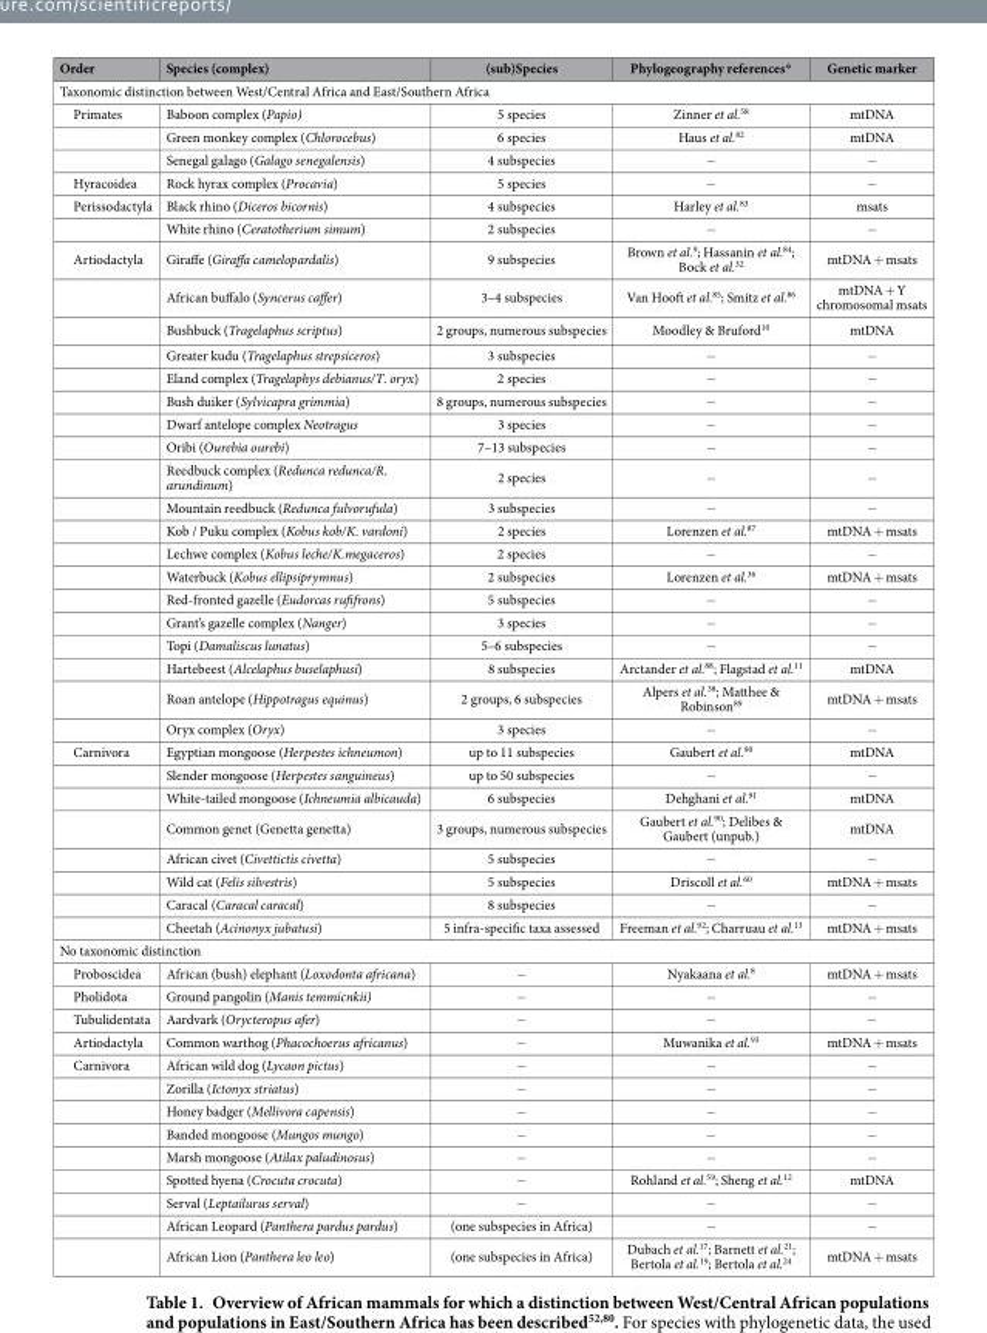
<table><thead><tr><td>Order</td><td>Species (complex)</td><td>(sub)Species</td><td>Phylogeography references*</td><td>Genetic marker</td></tr></thead><tbody><tr><td colspan="5">Taxonomic distinction between West/Central Africa and East/Southern Africa</td></tr><tr><td rowspan="3">Primates</td><td>Baboon complex (Papio)</td><td>5 species</td><td>Zinner et al.<sup>58</sup></td><td>mtDNA</td></tr><tr><td>Green monkey complex (Chlorocebus)</td><td>6 species</td><td>Haus et al.<sup>82</sup></td><td>mtDNA</td></tr><tr><td>Senegal galago (Galago senegalensis)</td><td>4 subspecies</td><td>−</td><td>−</td></tr><tr><td>Hyracoidea</td><td>Rock hyrax complex (Procavia)</td><td>5 species</td><td>−</td><td>−</td></tr><tr><td rowspan="2">Perissodactyla</td><td>Black rhino (Diceros bicornis)</td><td>4 subspecies</td><td>Harley et al.<sup>83</sup></td><td>msats</td></tr><tr><td>White rhino (Ceratotherium simum)</td><td>2 subspecies</td><td>−</td><td>−</td></tr><tr><td rowspan="19">Artiodactyla</td><td>Giraffe (Giraffa camelopardalis)</td><td>9 subspecies</td><td>Brown et al.<sup>9</sup>; Hassanin et al.<sup>84</sup>; Bock et al.<sup>32</sup></td><td>mtDNA + msats</td></tr><tr><td>African buffalo (Syncerus caffer)</td><td>3–4 subspecies</td><td>Van Hooft et al.<sup>85</sup>; Smitz et al.<sup>86</sup></td><td>mtDNA + Y chromosomal msats</td></tr><tr><td>Bushbuck (Tragelaphus scriptus)</td><td>2 groups, numerous subspecies</td><td>Moodley &amp; Bruford<sup>10</sup></td><td>mtDNA</td></tr><tr><td>Greater kudu (Tragelaphus strepsiceros)</td><td>3 subspecies</td><td>−</td><td>−</td></tr><tr><td>Eland complex (Tragelaphys debianus/T. oryx)</td><td>2 species</td><td>−</td><td>−</td></tr><tr><td>Bush duiker (Sylvicapra grimmia)</td><td>8 groups, numerous subspecies</td><td>−</td><td>−</td></tr><tr><td>Dwarf antelope complex Neotragus</td><td>3 species</td><td>−</td><td>−</td></tr><tr><td>Oribi (Ourebia ourebi)</td><td>7–13 subspecies</td><td>−</td><td>−</td></tr><tr><td>Reedbuck complex (Redunca redunca/R. arundinum)</td><td>2 species</td><td>−</td><td>−</td></tr><tr><td>Mountain reedbuck (Redunca fulvorufula)</td><td>3 subspecies</td><td>−</td><td>−</td></tr><tr><td>Kob / Puku complex (Kobus kob/K. vardoni)</td><td>2 species</td><td>Lorenzen et al.<sup>87</sup></td><td>mtDNA + msats</td></tr><tr><td>Lechwe complex (Kobus leche/K.megaceros)</td><td>2 species</td><td>−</td><td>−</td></tr><tr><td>Waterbuck (Kobus ellipsiprymnus)</td><td>2 subspecies</td><td>Lorenzen et al.<sup>36</sup></td><td>mtDNA + msats</td></tr><tr><td>Red-fronted gazelle (Eudorcas rufifrons)</td><td>5 subspecies</td><td>−</td><td>−</td></tr><tr><td>Grant’s gazelle complex (Nanger)</td><td>3 species</td><td>−</td><td>−</td></tr><tr><td>Topi (Damaliscus lunatus)</td><td>5–6 subspecies</td><td>−</td><td>−</td></tr><tr><td>Hartebeest (Alcelaphus buselaphusi)</td><td>8 subspecies</td><td>Arctander et al.<sup>88</sup>; Flagstad et al.<sup>11</sup></td><td>mtDNA</td></tr><tr><td>Roan antelope (Hippotragus equinus)</td><td>2 groups, 6 subspecies</td><td>Alpers et al.<sup>38</sup>; Matthee &amp; Robinson<sup>89</sup></td><td>mtDNA + msats</td></tr><tr><td>Oryx complex (Oryx)</td><td>3 species</td><td>−</td><td>−</td></tr><tr><td rowspan="8">Carnivora</td><td>Egyptian mongoose (Herpestes ichneumon)</td><td>up to 11 subspecies</td><td>Gaubert et al.<sup>90</sup></td><td>mtDNA</td></tr><tr><td>Slender mongoose (Herpestes sanguineus)</td><td>up to 50 subspecies</td><td>−</td><td>−</td></tr><tr><td>White-tailed mongoose (Ichneumia albicauda)</td><td>6 subspecies</td><td>Dehghani et al.<sup>91</sup></td><td>mtDNA</td></tr><tr><td>Common genet (Genetta genetta)</td><td>3 groups, numerous subspecies</td><td>Gaubert et al.<sup>90</sup>; Delibes &amp; Gaubert (unpub.)</td><td>mtDNA</td></tr><tr><td>African civet (Civettictis civetta)</td><td>5 subspecies</td><td>−</td><td>−</td></tr><tr><td>Wild cat (Felis silvestris)</td><td>5 subspecies</td><td>Driscoll et al.<sup>60</sup></td><td>mtDNA + msats</td></tr><tr><td>Caracal (Caracal caracal)</td><td>8 subspecies</td><td>−</td><td>−</td></tr><tr><td>Cheetah (Acinonyx jubatusi)</td><td>5 infra-specific taxa assessed</td><td>Freeman et al.<sup>92</sup>; Charruau et al.<sup>13</sup></td><td>mtDNA + msats</td></tr><tr><td colspan="5">No taxonomic distinction</td></tr><tr><td>Proboscidea</td><td>African (bush) elephant (Loxodonta africana)</td><td>−</td><td>Nyakaana et al.<sup>8</sup></td><td>mtDNA + msats</td></tr><tr><td>Pholidota</td><td>Ground pangolin (Manis temmicnkii)</td><td>−</td><td>−</td><td>−</td></tr><tr><td>Tubulidentata</td><td>Aardvark (Orycteropus afer)</td><td>−</td><td>−</td><td>−</td></tr><tr><td>Artiodactyla</td><td>Common warthog (Phacochoerus africanus)</td><td>−</td><td>Muwanika et al.<sup>93</sup></td><td>mtDNA + msats</td></tr><tr><td rowspan="9">Carnivora</td><td>African wild dog (Lycaon pictus)</td><td>−</td><td>−</td><td>−</td></tr><tr><td>Zorilla (Ictonyx striatus)</td><td>−</td><td>−</td><td>−</td></tr><tr><td>Honey badger (Mellivora capensis)</td><td>−</td><td>−</td><td>−</td></tr><tr><td>Banded mongoose (Mungos mungo)</td><td>−</td><td>−</td><td>−</td></tr><tr><td>Marsh mongoose (Atilax paludinosus)</td><td>−</td><td>−</td><td>−</td></tr><tr><td>Spotted hyena (Crocuta crocuta)</td><td>−</td><td>Rohland et al.<sup>59</sup>; Sheng et al.<sup>12</sup></td><td>mtDNA</td></tr><tr><td>Serval (Leptailurus serval)</td><td>−</td><td>−</td><td>−</td></tr><tr><td>African Leopard (Panthera pardus pardus)</td><td>(one subspecies in Africa)</td><td>−</td><td>−</td></tr><tr><td>African Lion (Panthera leo leo)</td><td>(one subspecies in Africa)</td><td>Dubach et al.<sup>17</sup>; Barnett et al.<sup>21</sup>; Bertola et al.<sup>19</sup>; Bertola et al.<sup>24</sup></td><td>mtDNA + msats</td></tr></tbody></table>